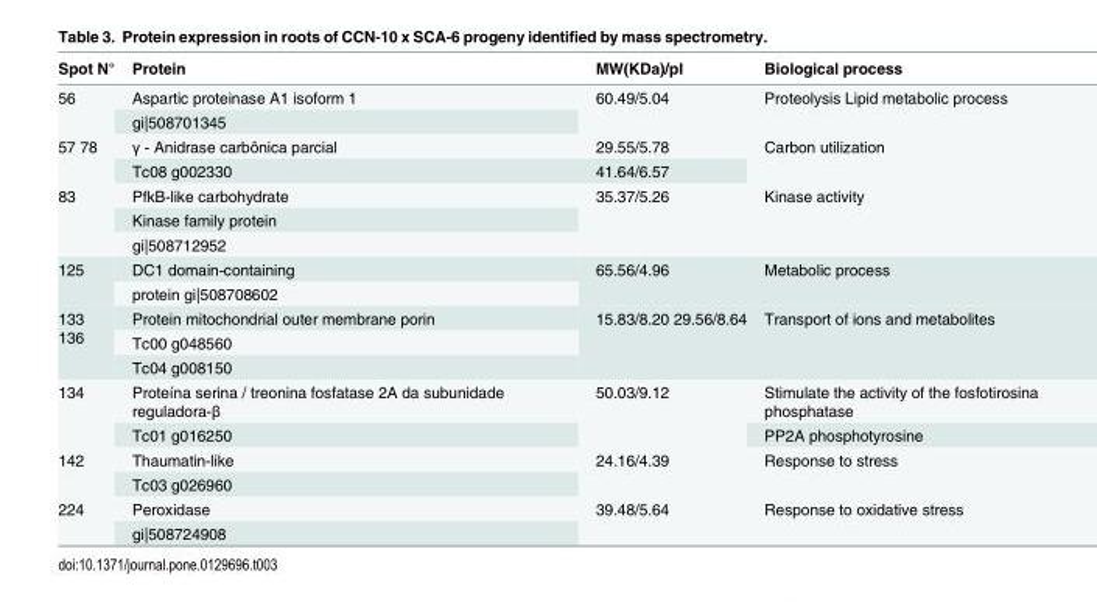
<table><thead><tr><td>Spot N°</td><td>Protein</td><td>MW(KDa)/pI</td><td>Biological process</td></tr></thead><tbody><tr><td rowspan="2">56</td><td>Aspartic proteinase A1 isoform 1</td><td rowspan="2">60.49/5.04</td><td rowspan="2">Proteolysis Lipid metabolic process</td></tr><tr><td>gi|508701345</td></tr><tr><td rowspan="2">57 78</td><td>γ - Anidrase carbônica parcial</td><td>29.55/5.78</td><td rowspan="2">Carbon utilization</td></tr><tr><td>Tc08 g002330</td><td>41.64/6.57</td></tr><tr><td rowspan="3">83</td><td>PfkB-like carbohydrate</td><td rowspan="3">35.37/5.26</td><td rowspan="3">Kinase activity</td></tr><tr><td>Kinase family protein</td></tr><tr><td>gi|508712952</td></tr><tr><td rowspan="2">125</td><td>DC1 domain-containing</td><td rowspan="2">65.56/4.96</td><td rowspan="2">Metabolic process</td></tr><tr><td>protein gi|508708602</td></tr><tr><td rowspan="3">133 136</td><td>Protein mitochondrial outer membrane porin</td><td rowspan="3">15.83/8.20 29.56/8.64</td><td rowspan="3">Transport of ions and metabolites</td></tr><tr><td>Tc00 g048560</td></tr><tr><td>Tc04 g008150</td></tr><tr><td rowspan="2">134</td><td>Proteína serina / treonina fosfatase 2A da subunidade reguladora-β</td><td rowspan="2">50.03/9.12</td><td>Stimulate the activity of the fosfotirosina phosphatase</td></tr><tr><td>Tc01 g016250</td><td>PP2A phosphotyrosine</td></tr><tr><td rowspan="2">142</td><td>Thaumatin-like</td><td rowspan="2">24.16/4.39</td><td rowspan="2">Response to stress</td></tr><tr><td>Tc03 g026960</td></tr><tr><td rowspan="2">224</td><td>Peroxidase</td><td rowspan="2">39.48/5.64</td><td rowspan="2">Response to oxidative stress</td></tr><tr><td>gi|508724908</td></tr></tbody></table>